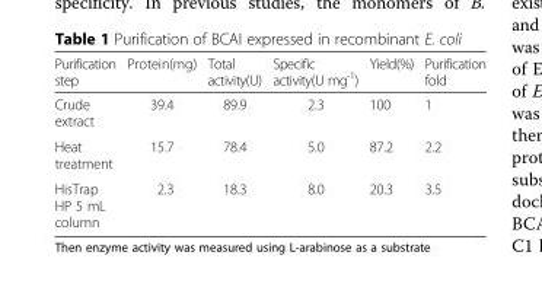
<table><thead><tr><td>Purification step</td><td>Protein(mg)</td><td>Total activity(U)</td><td>Specific activity(U mg<sup>-1</sup>)</td><td>Yield(%)</td><td>Purification fold</td></tr></thead><tbody><tr><td>Crude extract</td><td>39.4</td><td>89.9</td><td>2.3</td><td>100</td><td>1</td></tr><tr><td>Heat treatment</td><td>15.7</td><td>78.4</td><td>5.0</td><td>87.2</td><td>2.2</td></tr><tr><td>HisTrap HP 5 mL column</td><td>2.3</td><td>18.3</td><td>8.0</td><td>20.3</td><td>3.5</td></tr></tbody></table>